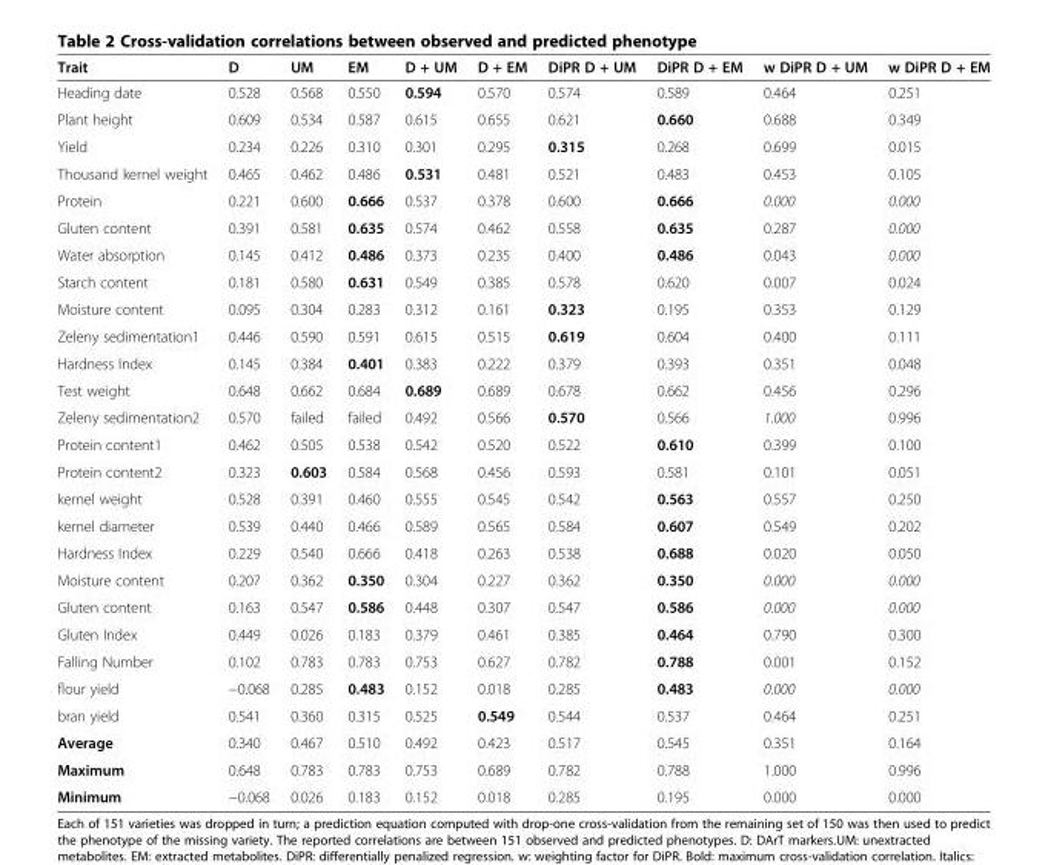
<table><thead><tr><td>Trait</td><td>D</td><td>UM</td><td>EM</td><td>D + UM</td><td>D + EM</td><td>DiPR D + UM</td><td>DiPR D + EM</td><td>w DiPR D + UM</td><td>w DiPR D + EM</td></tr></thead><tbody><tr><td>Heading date</td><td>0.528</td><td>0.568</td><td>0.550</td><td>0.594</td><td>0.570</td><td>0.574</td><td>0.589</td><td>0.464</td><td>0.251</td></tr><tr><td>Plant height</td><td>0.609</td><td>0.534</td><td>0.587</td><td>0.615</td><td>0.655</td><td>0.621</td><td>0.660</td><td>0.688</td><td>0.349</td></tr><tr><td>Yield</td><td>0.234</td><td>0.226</td><td>0.310</td><td>0.301</td><td>0.295</td><td>0.315</td><td>0.268</td><td>0.699</td><td>0.015</td></tr><tr><td>Thousand kernel weight</td><td>0.465</td><td>0.462</td><td>0.486</td><td>0.531</td><td>0.481</td><td>0.521</td><td>0.483</td><td>0.453</td><td>0.105</td></tr><tr><td>Protein</td><td>0.221</td><td>0.600</td><td>0.666</td><td>0.537</td><td>0.378</td><td>0.600</td><td>0.666</td><td>0.000</td><td>0.000</td></tr><tr><td>Gluten content</td><td>0.391</td><td>0.581</td><td>0.635</td><td>0.574</td><td>0.462</td><td>0.558</td><td>0.635</td><td>0.287</td><td>0.000</td></tr><tr><td>Water absorption</td><td>0.145</td><td>0.412</td><td>0.486</td><td>0.373</td><td>0.235</td><td>0.400</td><td>0.486</td><td>0.043</td><td>0.000</td></tr><tr><td>Starch content</td><td>0.181</td><td>0.580</td><td>0.631</td><td>0.549</td><td>0.385</td><td>0.578</td><td>0.620</td><td>0.007</td><td>0.024</td></tr><tr><td>Moisture content</td><td>0.095</td><td>0.304</td><td>0.283</td><td>0.312</td><td>0.161</td><td>0.323</td><td>0.195</td><td>0.353</td><td>0.129</td></tr><tr><td>Zeleny sedimentation1</td><td>0.446</td><td>0.590</td><td>0.591</td><td>0.615</td><td>0.515</td><td>0.619</td><td>0.604</td><td>0.400</td><td>0.111</td></tr><tr><td>Hardness Index</td><td>0.145</td><td>0.384</td><td>0.401</td><td>0.383</td><td>0.222</td><td>0.379</td><td>0.393</td><td>0.351</td><td>0.048</td></tr><tr><td>Test weight</td><td>0.648</td><td>0.662</td><td>0.684</td><td>0.689</td><td>0.689</td><td>0.678</td><td>0.662</td><td>0.456</td><td>0.296</td></tr><tr><td>Zeleny sedimentation2</td><td>0.570</td><td>failed</td><td>failed</td><td>0.492</td><td>0.566</td><td>0.570</td><td>0.566</td><td>1.000</td><td>0.996</td></tr><tr><td>Protein content1</td><td>0.462</td><td>0.505</td><td>0.538</td><td>0.542</td><td>0.520</td><td>0.522</td><td>0.610</td><td>0.399</td><td>0.100</td></tr><tr><td>Protein content2</td><td>0.323</td><td>0.603</td><td>0.584</td><td>0.568</td><td>0.456</td><td>0.593</td><td>0.581</td><td>0.101</td><td>0.051</td></tr><tr><td>kernel weight</td><td>0.528</td><td>0.391</td><td>0.460</td><td>0.555</td><td>0.545</td><td>0.542</td><td>0.563</td><td>0.557</td><td>0.250</td></tr><tr><td>kernel diameter</td><td>0.539</td><td>0.440</td><td>0.466</td><td>0.589</td><td>0.565</td><td>0.584</td><td>0.607</td><td>0.549</td><td>0.202</td></tr><tr><td>Hardness Index</td><td>0.229</td><td>0.540</td><td>0.666</td><td>0.418</td><td>0.263</td><td>0.538</td><td>0.688</td><td>0.020</td><td>0.050</td></tr><tr><td>Moisture content</td><td>0.207</td><td>0.362</td><td>0.350</td><td>0.304</td><td>0.227</td><td>0.362</td><td>0.350</td><td>0.000</td><td>0.000</td></tr><tr><td>Gluten content</td><td>0.163</td><td>0.547</td><td>0.586</td><td>0.448</td><td>0.307</td><td>0.547</td><td>0.586</td><td>0.000</td><td>0.000</td></tr><tr><td>Gluten Index</td><td>0.449</td><td>0.026</td><td>0.183</td><td>0.379</td><td>0.461</td><td>0.385</td><td>0.464</td><td>0.790</td><td>0.300</td></tr><tr><td>Falling Number</td><td>0.102</td><td>0.783</td><td>0.783</td><td>0.753</td><td>0.627</td><td>0.782</td><td>0.788</td><td>0.001</td><td>0.152</td></tr><tr><td>flour yield</td><td>−0.068</td><td>0.285</td><td>0.483</td><td>0.152</td><td>0.018</td><td>0.285</td><td>0.483</td><td>0.000</td><td>0.000</td></tr><tr><td>bran yield</td><td>0.541</td><td>0.360</td><td>0.315</td><td>0.525</td><td>0.549</td><td>0.544</td><td>0.537</td><td>0.464</td><td>0.251</td></tr><tr><td>Average</td><td>0.340</td><td>0.467</td><td>0.510</td><td>0.492</td><td>0.423</td><td>0.517</td><td>0.545</td><td>0.351</td><td>0.164</td></tr><tr><td>Maximum</td><td>0.648</td><td>0.783</td><td>0.783</td><td>0.753</td><td>0.689</td><td>0.782</td><td>0.788</td><td>1.000</td><td>0.996</td></tr><tr><td>Minimum</td><td>−0.068</td><td>0.026</td><td>0.183</td><td>0.152</td><td>0.018</td><td>0.285</td><td>0.195</td><td>0.000</td><td>0.000</td></tr></tbody></table>